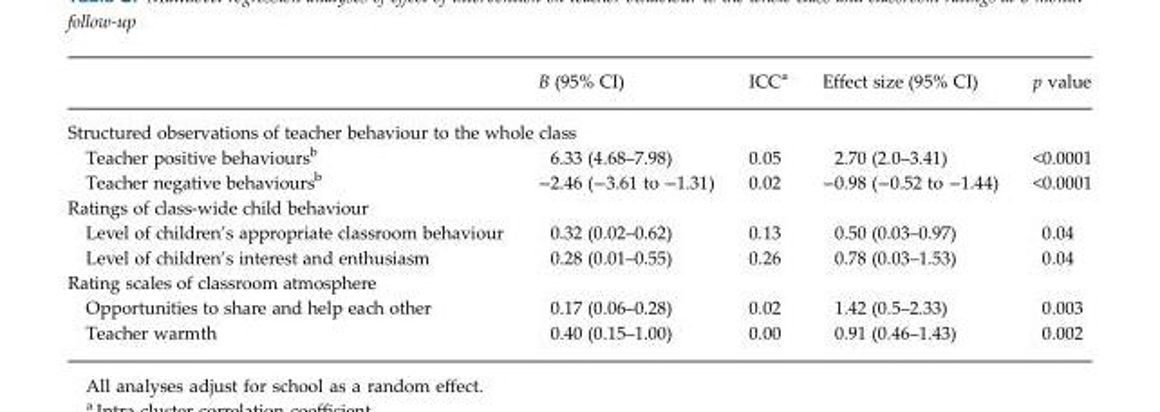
<table><thead><tr><td></td><td>B (95% CI)</td><td>ICC<sup>a</sup></td><td>Effect size (95% CI)</td><td>p value</td></tr></thead><tbody><tr><td colspan="5">Structured observations of teacher behaviour to the whole class</td></tr><tr><td>Teacher positive behaviours<sup>b</sup></td><td>6.33 (4.68–7.98)</td><td>0.05</td><td>2.70 (2.0–3.41)</td><td>&lt;0.0001</td></tr><tr><td>Teacher negative behaviours<sup>b</sup></td><td>−2.46 (−3.61 to −1.31)</td><td>0.02</td><td>−0.98 (−0.52 to −1.44)</td><td>&lt;0.0001</td></tr><tr><td colspan="5">Ratings of class-wide child behaviour</td></tr><tr><td>Level of children’s appropriate classroom behaviour</td><td>0.32 (0.02–0.62)</td><td>0.13</td><td>0.50 (0.03–0.97)</td><td>0.04</td></tr><tr><td>Level of children’s interest and enthusiasm</td><td>0.28 (0.01–0.55)</td><td>0.26</td><td>0.78 (0.03–1.53)</td><td>0.04</td></tr><tr><td colspan="5">Rating scales of classroom atmosphere</td></tr><tr><td>Opportunities to share and help each other</td><td>0.17 (0.06–0.28)</td><td>0.02</td><td>1.42 (0.5–2.33)</td><td>0.003</td></tr><tr><td>Teacher warmth</td><td>0.40 (0.15–1.00)</td><td>0.00</td><td>0.91 (0.46–1.43)</td><td>0.002</td></tr></tbody></table>